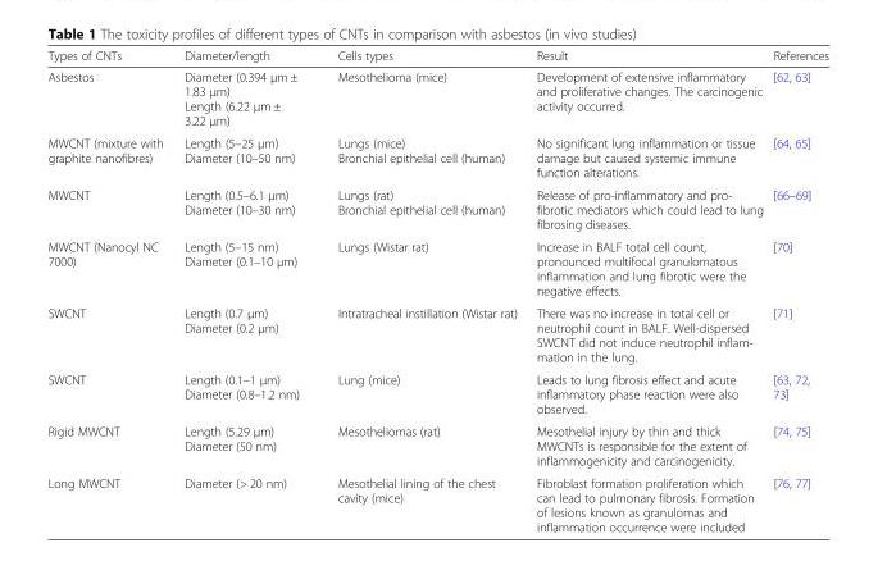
<table><thead><tr><td>Types of CNTs</td><td>Diameter/length</td><td>Cells types</td><td>Result</td><td>References</td></tr></thead><tbody><tr><td>Asbestos</td><td>Diameter (0.394 μm ± 1.83 μm) Length (6.22 μm ± 3.22 μm)</td><td>Mesothelioma (mice)</td><td>Development of extensive inflammatory and proliferative changes. The carcinogenic activity occurred.</td><td>[62, 63]</td></tr><tr><td>MWCNT (mixture with graphite nanofibres)</td><td>Length (5–25 μm) Diameter (10–50 nm)</td><td>Lungs (mice) Bronchial epithelial cell (human)</td><td>No significant lung inflammation or tissue damage but caused systemic immune function alterations.</td><td>[64, 65]</td></tr><tr><td>MWCNT</td><td>Length (0.5–6.1 μm) Diameter (10–30 nm)</td><td>Lungs (rat) Bronchial epithelial cell (human)</td><td>Release of pro-inflammatory and pro- fibrotic mediators which could lead to lung fibrosing diseases.</td><td>[66–69]</td></tr><tr><td>MWCNT (Nanocyl NC 7000)</td><td>Length (5–15 nm) Diameter (0.1–10 μm)</td><td>Lungs (Wistar rat)</td><td>Increase in BALF total cell count, pronounced multifocal granulomatous inflammation and lung fibrotic were the negative effects.</td><td>[70]</td></tr><tr><td>SWCNT</td><td>Length (0.7 μm) Diameter (0.2 μm)</td><td>Intratracheal instillation (Wistar rat)</td><td>There was no increase in total cell or neutrophil count in BALF. Well-dispersed SWCNT did not induce neutrophil inflam- mation in the lung.</td><td>[71]</td></tr><tr><td>SWCNT</td><td>Length (0.1–1 μm) Diameter (0.8–1.2 nm)</td><td>Lung (mice)</td><td>Leads to lung fibrosis effect and acute inflammatory phase reaction were also observed.</td><td>[63, 72, 73]</td></tr><tr><td>Rigid MWCNT</td><td>Length (5.29 μm) Diameter (50 nm)</td><td>Mesotheliomas (rat)</td><td>Mesothelial injury by thin and thick MWCNTs is responsible for the extent of inflammogenicity and carcinogenicity.</td><td>[74, 75]</td></tr><tr><td>Long MWCNT</td><td>Diameter (&gt; 20 nm)</td><td>Mesothelial lining of the chest cavity (mice)</td><td>Fibroblast formation proliferation which can lead to pulmonary fibrosis. Formation of lesions known as granulomas and inflammation occurrence were included</td><td>[76, 77]</td></tr></tbody></table>